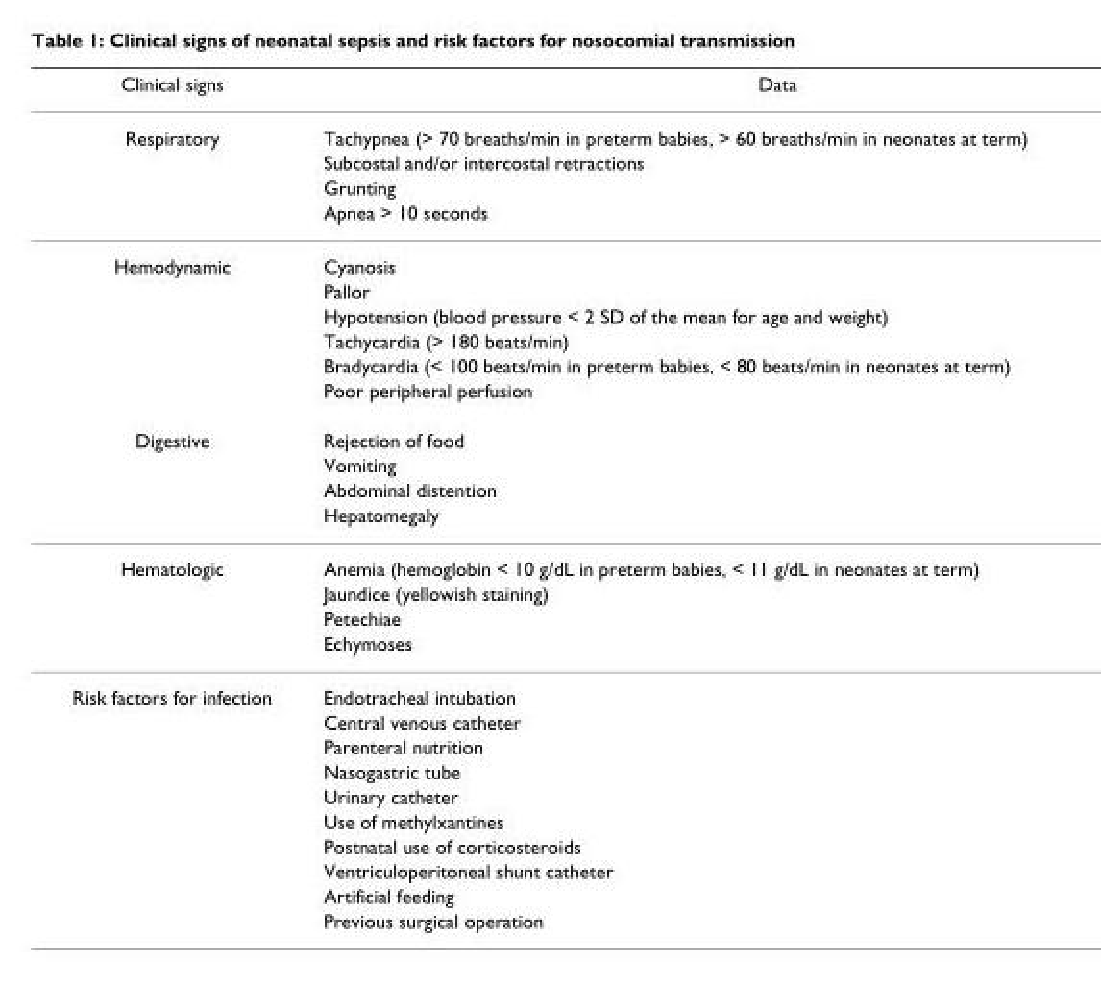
<table><thead><tr><td>Clinical signs</td><td>Data</td></tr></thead><tbody><tr><td rowspan="4">Respiratory</td><td>Tachypnea (&gt; 70 breaths/min in preterm babies, &gt; 60 breaths/min in neonates at term)</td></tr><tr><td>Subcostal and/or intercostal retractions</td></tr><tr><td>Grunting</td></tr><tr><td>Apnea &gt; 10 seconds</td></tr><tr><td rowspan="6">Hemodynamic</td><td>Cyanosis</td></tr><tr><td>Pallor</td></tr><tr><td>Hypotension (blood pressure &lt; 2 SD of the mean for age and weight)</td></tr><tr><td>Tachycardia (&gt; 180 beats/min)</td></tr><tr><td>Bradycardia (&lt; 100 beats/min in preterm babies, &lt; 80 beats/min in neonates at term)</td></tr><tr><td>Poor peripheral perfusion</td></tr><tr><td rowspan="4">Digestive</td><td>Rejection of food</td></tr><tr><td>Vomiting</td></tr><tr><td>Abdominal distention</td></tr><tr><td>Hepatomegaly</td></tr><tr><td rowspan="4">Hematologic</td><td>Anemia (hemoglobin &lt; 10 g/dL in preterm babies, &lt; 11 g/dL in neonates at term)</td></tr><tr><td>Jaundice (yellowish staining)</td></tr><tr><td>Petechiae</td></tr><tr><td>Echymoses</td></tr><tr><td rowspan="10">Risk factors for infection</td><td>Endotracheal intubation</td></tr><tr><td>Central venous catheter</td></tr><tr><td>Parenteral nutrition</td></tr><tr><td>Nasogastric tube</td></tr><tr><td>Urinary catheter</td></tr><tr><td>Use of methylxantines</td></tr><tr><td>Postnatal use of corticosteroids</td></tr><tr><td>Ventriculoperitoneal shunt catheter</td></tr><tr><td>Artificial feeding</td></tr><tr><td>Previous surgical operation</td></tr></tbody></table>